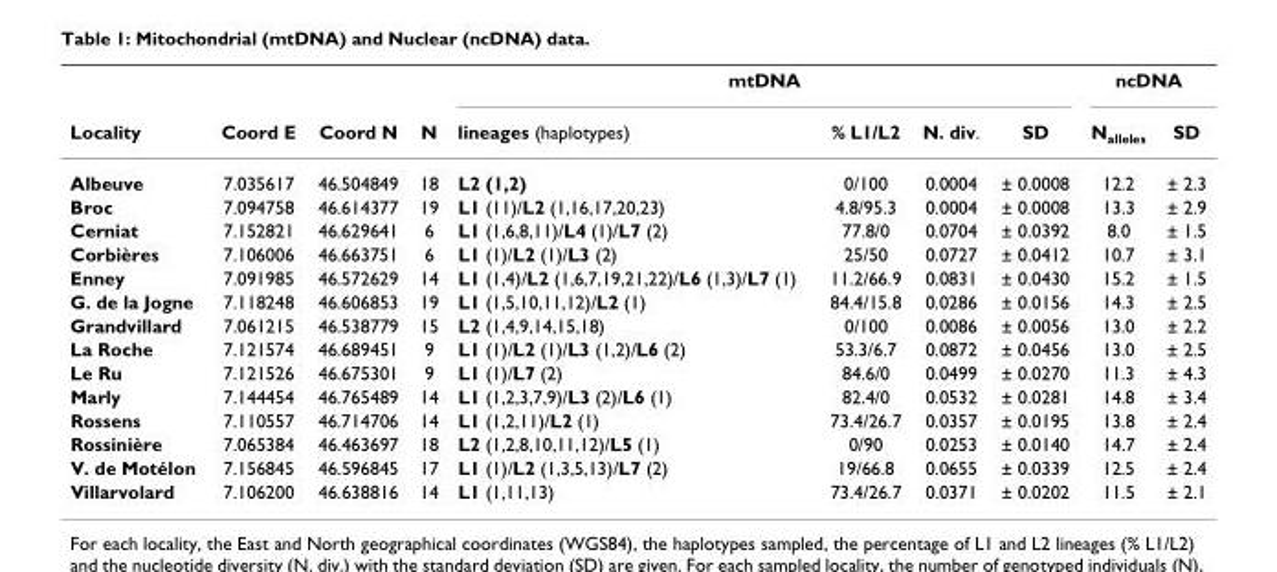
<table><thead><tr><td rowspan="2">Locality</td><td rowspan="2">Coord E</td><td rowspan="2">Coord N</td><td rowspan="2">N</td><td colspan="4">mtDNA</td><td colspan="2">ncDNA</td></tr><tr><td>lineages (haplotypes)</td><td>% L1/L2</td><td>N. div.</td><td>SD</td><td>N<sub>alleles</sub></td><td>SD</td></tr></thead><tbody><tr><td>Albeuve</td><td>7.035617</td><td>46.504849</td><td>18</td><td>L2 (1,2)</td><td>0/100</td><td>0.0004</td><td>± 0.0008</td><td>12.2</td><td>± 2.3</td></tr><tr><td>Broc</td><td>7.094758</td><td>46.614377</td><td>19</td><td>L1 (11)/L2 (1,16,17,20,23)</td><td>4.8/95.3</td><td>0.0004</td><td>± 0.0008</td><td>13.3</td><td>± 2.9</td></tr><tr><td>Cerniat</td><td>7.152821</td><td>46.629641</td><td>6</td><td>L1 (1,6,8,11)/L4 (1)/L7 (2)</td><td>77.8/0</td><td>0.0704</td><td>± 0.0392</td><td>8.0</td><td>± 1.5</td></tr><tr><td>Corbières</td><td>7.106006</td><td>46.663751</td><td>6</td><td>L1 (1)/L2 (1)/L3 (2)</td><td>25/50</td><td>0.0727</td><td>± 0.0412</td><td>10.7</td><td>± 3.1</td></tr><tr><td>Enney</td><td>7.091985</td><td>46.572629</td><td>14</td><td>L1 (1,4)/L2 (1,6,7,19,21,22)/L6 (1,3)/L7 (1)</td><td>11.2/66.9</td><td>0.0831</td><td>± 0.0430</td><td>15.2</td><td>± 1.5</td></tr><tr><td>G. de la Jogne</td><td>7.118248</td><td>46.606853</td><td>19</td><td>L1 (1,5,10,11,12)/L2 (1)</td><td>84.4/15.8</td><td>0.0286</td><td>± 0.0156</td><td>14.3</td><td>± 2.5</td></tr><tr><td>Grandvillard</td><td>7.061215</td><td>46.538779</td><td>15</td><td>L2 (1,4,9,14,15,18)</td><td>0/100</td><td>0.0086</td><td>± 0.0056</td><td>13.0</td><td>± 2.2</td></tr><tr><td>La Roche</td><td>7.121574</td><td>46.689451</td><td>9</td><td>L1 (1)/L2 (1)/L3 (1,2)/L6 (2)</td><td>53.3/6.7</td><td>0.0872</td><td>± 0.0456</td><td>13.0</td><td>± 2.5</td></tr><tr><td>Le Ru</td><td>7.121526</td><td>46.675301</td><td>9</td><td>L1 (1)/L7 (2)</td><td>84.6/0</td><td>0.0499</td><td>± 0.0270</td><td>11.3</td><td>± 4.3</td></tr><tr><td>Marly</td><td>7.144454</td><td>46.765489</td><td>14</td><td>L1 (1,2,3,7,9)/L3 (2)/L6 (1)</td><td>82.4/0</td><td>0.0532</td><td>± 0.0281</td><td>14.8</td><td>± 3.4</td></tr><tr><td>Rossens</td><td>7.110557</td><td>46.714706</td><td>14</td><td>L1 (1,2,11)/L2 (1)</td><td>73.4/26.7</td><td>0.0357</td><td>± 0.0195</td><td>13.8</td><td>± 2.4</td></tr><tr><td>Rossinière</td><td>7.065384</td><td>46.463697</td><td>18</td><td>L2 (1,2,8,10,11,12)/L5 (1)</td><td>0/90</td><td>0.0253</td><td>± 0.0140</td><td>14.7</td><td>± 2.4</td></tr><tr><td>V. de Motélon</td><td>7.156845</td><td>46.596845</td><td>17</td><td>L1 (1)/L2 (1,3,5,13)/L7 (2)</td><td>19/66.8</td><td>0.0655</td><td>± 0.0339</td><td>12.5</td><td>± 2.4</td></tr><tr><td>Villarvolard</td><td>7.106200</td><td>46.638816</td><td>14</td><td>L1 (1,11,13)</td><td>73.4/26.7</td><td>0.0371</td><td>± 0.0202</td><td>11.5</td><td>± 2.1</td></tr></tbody></table>